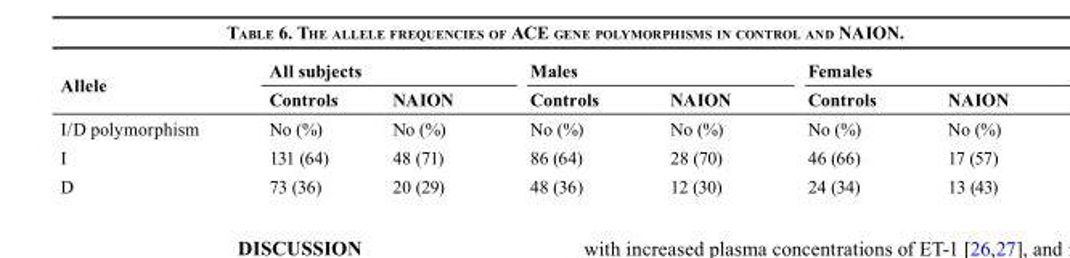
<table><thead><tr><td rowspan="2">Allele</td><td colspan="2">All subjects</td><td colspan="2">Males</td><td colspan="2">Females</td></tr><tr><td>Controls</td><td>NAION</td><td>Controls</td><td>NAION</td><td>Controls</td><td>NAION</td></tr></thead><tbody><tr><td>I/D polymorphism</td><td>No (%)</td><td>No (%)</td><td>No (%)</td><td>No (%)</td><td>No (%)</td><td>No (%)</td></tr><tr><td>I</td><td>131 (64)</td><td>48 (71)</td><td>86 (64)</td><td>28 (70)</td><td>46 (66)</td><td>17 (57)</td></tr><tr><td>D</td><td>73 (36)</td><td>20 (29)</td><td>48 (36)</td><td>12 (30)</td><td>24 (34)</td><td>13 (43)</td></tr></tbody></table>